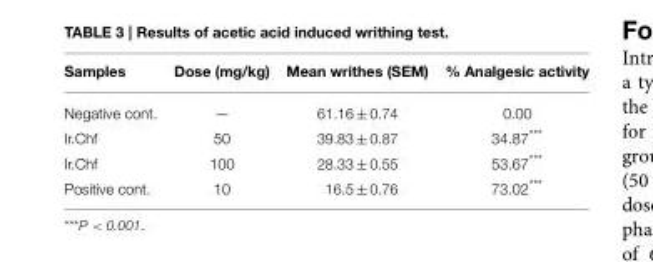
<table><thead><tr><td>Samples</td><td>Dose (mg/kg)</td><td>Mean writhes (SEM)</td><td>% Analgesic activity</td></tr></thead><tbody><tr><td>Negative cont.</td><td>—</td><td>61.16 ± 0.74</td><td>0.00</td></tr><tr><td>Ir.Chf</td><td>50</td><td>39.83 ± 0.87</td><td>34.87***</td></tr><tr><td>Ir.Chf</td><td>100</td><td>28.33 ± 0.55</td><td>53.67***</td></tr><tr><td>Positive cont.</td><td>10</td><td>16.5 ± 0.76</td><td>73.02***</td></tr></tbody></table>